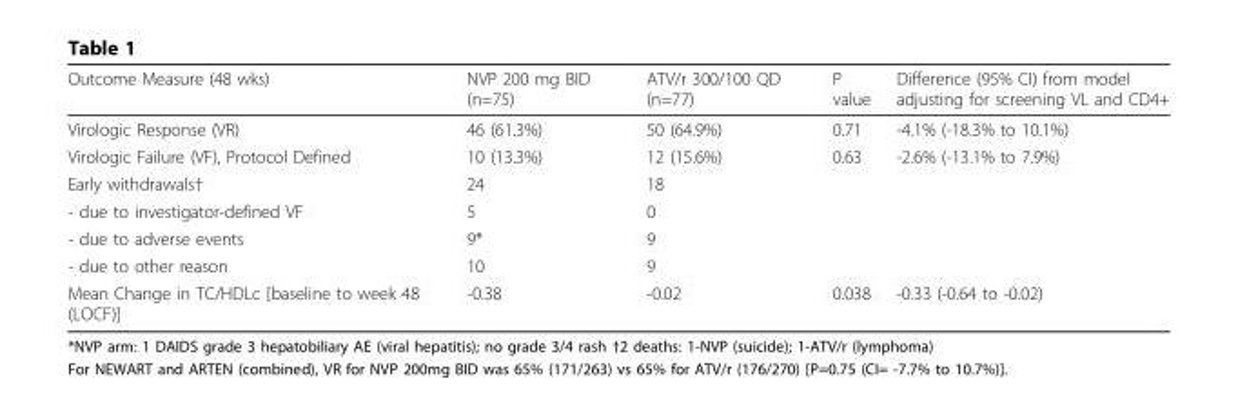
<table><thead><tr><td>Outcome Measure (48 wks)</td><td>NVP 200 mg BID (n=75)</td><td>ATV/r 300/100 QD (n=77)</td><td>P value</td><td>Difference (95% CI) from model adjusting for screening VL and CD4+</td></tr></thead><tbody><tr><td>Virologic Response (VR)</td><td>46 (61.3%)</td><td>50 (64.9%)</td><td>0.71</td><td>-4.1% (-18.3% to 10.1%)</td></tr><tr><td>Virologic Failure (VF), Protocol Defined</td><td>10 (13.3%)</td><td>12 (15.6%)</td><td>0.63</td><td>-2.6% (-13.1% to 7.9%)</td></tr><tr><td>Early withdrawals†</td><td>24</td><td>18</td><td></td><td></td></tr><tr><td>- due to investigator-defined VF</td><td>5</td><td>0</td><td></td><td></td></tr><tr><td>- due to adverse events</td><td>9*</td><td>9</td><td></td><td></td></tr><tr><td>- due to other reason</td><td>10</td><td>9</td><td></td><td></td></tr><tr><td>Mean Change in TC/HDLc [baseline to week 48 (LOCF)]</td><td>-0.38</td><td>-0.02</td><td>0.038</td><td>-0.33 (-0.64 to -0.02)</td></tr></tbody></table>